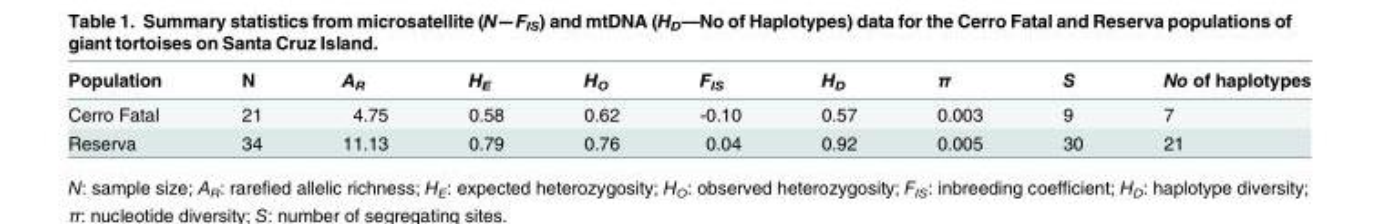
<table><thead><tr><td>Population</td><td>N</td><td>A<sub>R</sub></td><td>H<sub>E</sub></td><td>H<sub>O</sub></td><td>F<sub>IS</sub></td><td>H<sub>D</sub></td><td>π</td><td>S</td><td>No of haplotypes</td></tr></thead><tbody><tr><td>Cerro Fatal</td><td>21</td><td>4.75</td><td>0.58</td><td>0.62</td><td>-0.10</td><td>0.57</td><td>0.003</td><td>9</td><td>7</td></tr><tr><td>Reserva</td><td>34</td><td>11.13</td><td>0.79</td><td>0.76</td><td>0.04</td><td>0.92</td><td>0.005</td><td>30</td><td>21</td></tr></tbody></table>